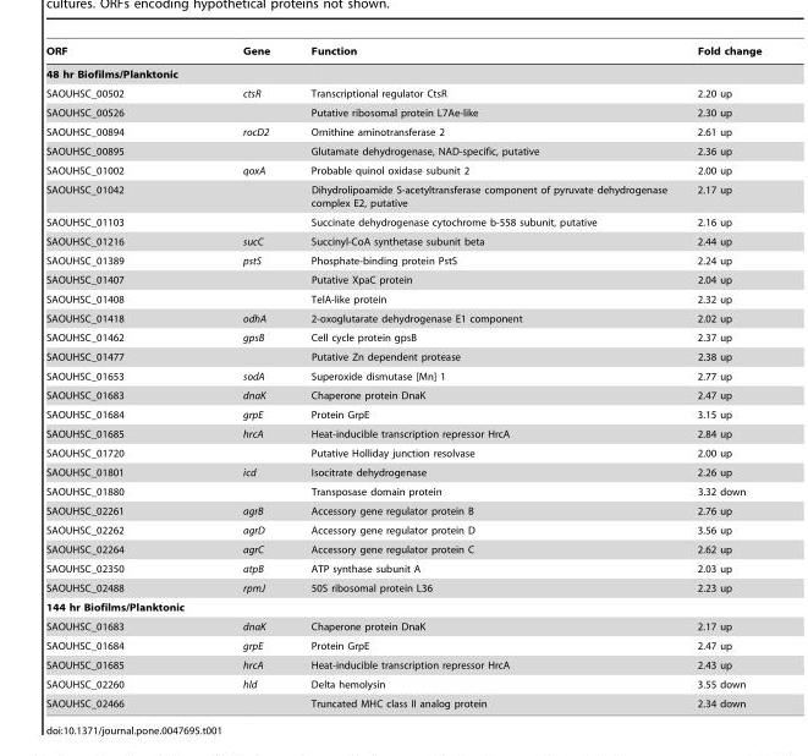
<table><thead><tr><td>ORF</td><td>Gene</td><td>Function</td><td>Fold change</td></tr></thead><tbody><tr><td colspan="4">48 hr Biofilms/Planktonic</td></tr><tr><td>SAOUHSC_00502</td><td>ctsR</td><td>Transcriptional regulator CtsR</td><td>2.20 up</td></tr><tr><td>SAOUHSC_00526</td><td></td><td>Putative ribosomal protein L7Ae-like</td><td>2.30 up</td></tr><tr><td>SAOUHSC_00894</td><td>rocD2</td><td>Ornithine aminotransferase 2</td><td>2.61 up</td></tr><tr><td>SAOUHSC_00895</td><td></td><td>Glutamate dehydrogenase, NAD-specific, putative</td><td>2.36 up</td></tr><tr><td>SAOUHSC_01002</td><td>qoxA</td><td>Probable quinol oxidase subunit 2</td><td>2.00 up</td></tr><tr><td>SAOUHSC_01042</td><td></td><td>Dihydrolipoamide S-acetyltransferase component of pyruvate dehydrogenase complex E2, putative</td><td>2.17 up</td></tr><tr><td>SAOUHSC_01103</td><td></td><td>Succinate dehydrogenase cytochrome b-558 subunit, putative</td><td>2.16 up</td></tr><tr><td>SAOUHSC_01216</td><td>sucC</td><td>Succinyl-CoA synthetase subunit beta</td><td>2.44 up</td></tr><tr><td>SAOUHSC_01389</td><td>pstS</td><td>Phosphate-binding protein PstS</td><td>2.24 up</td></tr><tr><td>SAOUHSC_01407</td><td></td><td>Putative XpaC protein</td><td>2.04 up</td></tr><tr><td>SAOUHSC_01408</td><td></td><td>TelA-like protein</td><td>2.32 up</td></tr><tr><td>SAOUHSC_01418</td><td>odhA</td><td>2-oxoglutarate dehydrogenase E1 component</td><td>2.02 up</td></tr><tr><td>SAOUHSC_01462</td><td>gpsB</td><td>Cell cycle protein gpsB</td><td>2.37 up</td></tr><tr><td>SAOUHSC_01477</td><td></td><td>Putative Zn dependent protease</td><td>2.38 up</td></tr><tr><td>SAOUHSC_01653</td><td>sodA</td><td>Superoxide dismutase [Mn] 1</td><td>2.77 up</td></tr><tr><td>SAOUHSC_01683</td><td>dnaK</td><td>Chaperone protein DnaK</td><td>2.47 up</td></tr><tr><td>SAOUHSC_01684</td><td>grpE</td><td>Protein GrpE</td><td>3.15 up</td></tr><tr><td>SAOUHSC_01685</td><td>hrcA</td><td>Heat-inducible transcription repressor HrcA</td><td>2.84 up</td></tr><tr><td>SAOUHSC_01720</td><td></td><td>Putative Holliday junction resolvase</td><td>2.00 up</td></tr><tr><td>SAOUHSC_01801</td><td>icd</td><td>Isocitrate dehydrogenase</td><td>2.26 up</td></tr><tr><td>SAOUHSC_01880</td><td></td><td>Transposase domain protein</td><td>3.32 down</td></tr><tr><td>SAOUHSC_02261</td><td>agrB</td><td>Accessory gene regulator protein B</td><td>2.76 up</td></tr><tr><td>SAOUHSC_02262</td><td>agrD</td><td>Accessory gene regulator protein D</td><td>3.56 up</td></tr><tr><td>SAOUHSC_02264</td><td>agrC</td><td>Accessory gene regulator protein C</td><td>2.62 up</td></tr><tr><td>SAOUHSC_02350</td><td>atpB</td><td>ATP synthase subunit A</td><td>2.03 up</td></tr><tr><td>SAOUHSC_02488</td><td>rpmJ</td><td>50S ribosomal protein L36</td><td>2.23 up</td></tr><tr><td colspan="4">144 hr Biofilms/Planktonic</td></tr><tr><td>SAOUHSC_01683</td><td>dnaK</td><td>Chaperone protein DnaK</td><td>2.17 up</td></tr><tr><td>SAOUHSC_01684</td><td>grpE</td><td>Protein GrpE</td><td>2.47 up</td></tr><tr><td>SAOUHSC_01685</td><td>hrcA</td><td>Heat-inducible transcription repressor HrcA</td><td>2.43 up</td></tr><tr><td>SAOUHSC_02260</td><td>hld</td><td>Delta hemolysin</td><td>3.55 down</td></tr><tr><td>SAOUHSC_02466</td><td></td><td>Truncated MHC class II analog protein</td><td>2.34 down</td></tr></tbody></table>